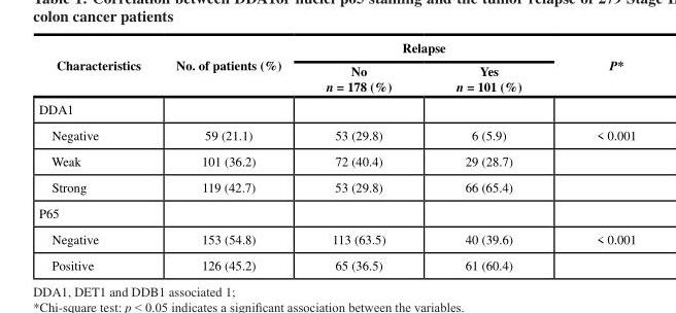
<table><thead><tr><td rowspan="2">Characteristics</td><td rowspan="2">No. of patients (%)</td><td colspan="2">Relapse</td><td rowspan="2">P*</td></tr><tr><td>No n = 178 (%)</td><td>Yes n = 101 (%)</td></tr></thead><tbody><tr><td colspan="5">DDA1</td></tr><tr><td>Negative</td><td>59 (21.1)</td><td>53 (29.8)</td><td>6 (5.9)</td><td>&lt; 0.001</td></tr><tr><td>Weak</td><td>101 (36.2)</td><td>72 (40.4)</td><td>29 (28.7)</td><td></td></tr><tr><td>Strong</td><td>119 (42.7)</td><td>53 (29.8)</td><td>66 (65.4)</td><td></td></tr><tr><td colspan="5">P65</td></tr><tr><td>Negative</td><td>153 (54.8)</td><td>113 (63.5)</td><td>40 (39.6)</td><td>&lt; 0.001</td></tr><tr><td>Positive</td><td>126 (45.2)</td><td>65 (36.5)</td><td>61 (60.4)</td><td></td></tr></tbody></table>